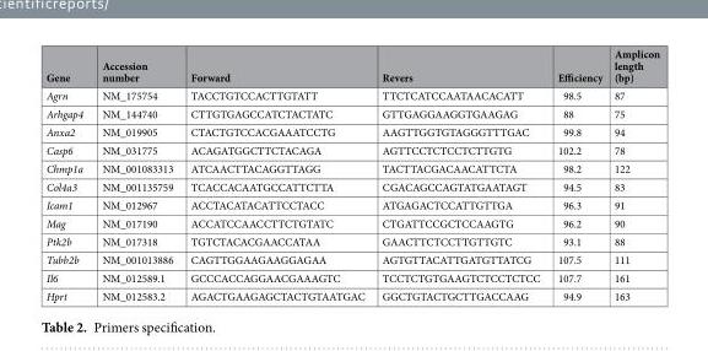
<table><thead><tr><td>Gene</td><td>Accession number</td><td>Forward</td><td>Revers</td><td>Efficiency</td><td>Amplicon length (bp)</td></tr></thead><tbody><tr><td>Agrn</td><td>NM_175754</td><td>TACCTGTCCACTTGTATT</td><td>TTCTCATCCAATAACACATT</td><td>98.5</td><td>87</td></tr><tr><td>Arhgap4</td><td>NM_144740</td><td>CTTGTGAGCCATCTACTATC</td><td>GTTGAGGAAGGTGAAGAG</td><td>88</td><td>75</td></tr><tr><td>Anxa2</td><td>NM_019905</td><td>CTACTGTCCACGAAATCCTG</td><td>AAGTTGGTGTAGGGTTTGAC</td><td>99.8</td><td>94</td></tr><tr><td>Casp6</td><td>NM_031775</td><td>ACAGATGGCTTCTACAGA</td><td>AGTTCCTCTCCTCTTGTG</td><td>102.2</td><td>78</td></tr><tr><td>Chmp1a</td><td>NM_001083313</td><td>ATCAACTTACAGGTTAGG</td><td>TACTTACGACAACATTCTA</td><td>98.2</td><td>122</td></tr><tr><td>Col4a3</td><td>NM_001135759</td><td>TCACCACAATGCCATTCTTA</td><td>CGACAGCCAGTATGAATAGT</td><td>94.5</td><td>83</td></tr><tr><td>Icam1</td><td>NM_012967</td><td>ACCTACATACATTCCTACC</td><td>ATGAGACTCCATTGTTGA</td><td>96.3</td><td>91</td></tr><tr><td>Mag</td><td>NM_017190</td><td>ACCATCCAACCTTCTGTATC</td><td>CTGATTCCGCTCCAAGTG</td><td>96.2</td><td>90</td></tr><tr><td>Ptk2b</td><td>NM_017318</td><td>TGTCTACACGAACCATAA</td><td>GAACTTCTCCTTGTTGTC</td><td>93.1</td><td>88</td></tr><tr><td>Tubb2b</td><td>NM_001013886</td><td>CAGTTGGAAGAAGGAGAA</td><td>AGTGTTACATTGATGTTATCG</td><td>107.5</td><td>111</td></tr><tr><td>Il6</td><td>NM_012589.1</td><td>GCCCACCAGGAACGAAAGTC</td><td>TCCTCTGTGAAGTCTCCTCTCC</td><td>107.7</td><td>161</td></tr><tr><td>Hprt</td><td>NM_012583.2</td><td>AGACTGAAGAGCTACTGTAATGAC</td><td>GGCTGTACTGCTTGACCAAG</td><td>94.9</td><td>163</td></tr></tbody></table>